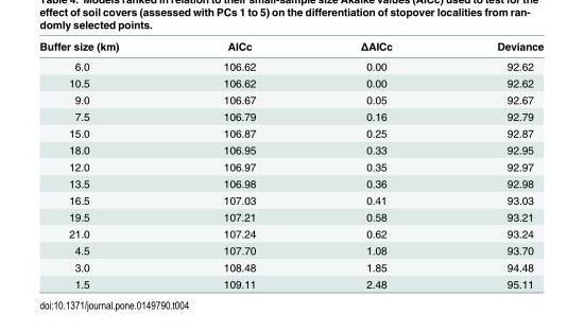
<table><thead><tr><td>Buffer size (km)</td><td>AICc</td><td>ΔAICc</td><td>Deviance</td></tr></thead><tbody><tr><td>6.0</td><td>106.62</td><td>0.00</td><td>92.62</td></tr><tr><td>10.5</td><td>106.62</td><td>0.00</td><td>92.62</td></tr><tr><td>9.0</td><td>106.67</td><td>0.05</td><td>92.67</td></tr><tr><td>7.5</td><td>106.79</td><td>0.16</td><td>92.79</td></tr><tr><td>15.0</td><td>106.87</td><td>0.25</td><td>92.87</td></tr><tr><td>18.0</td><td>106.95</td><td>0.33</td><td>92.95</td></tr><tr><td>12.0</td><td>106.97</td><td>0.35</td><td>92.97</td></tr><tr><td>13.5</td><td>106.98</td><td>0.36</td><td>92.98</td></tr><tr><td>16.5</td><td>107.03</td><td>0.41</td><td>93.03</td></tr><tr><td>19.5</td><td>107.21</td><td>0.58</td><td>93.21</td></tr><tr><td>21.0</td><td>107.24</td><td>0.62</td><td>93.24</td></tr><tr><td>4.5</td><td>107.70</td><td>1.08</td><td>93.70</td></tr><tr><td>3.0</td><td>108.48</td><td>1.85</td><td>94.48</td></tr><tr><td>1.5</td><td>109.11</td><td>2.48</td><td>95.11</td></tr></tbody></table>